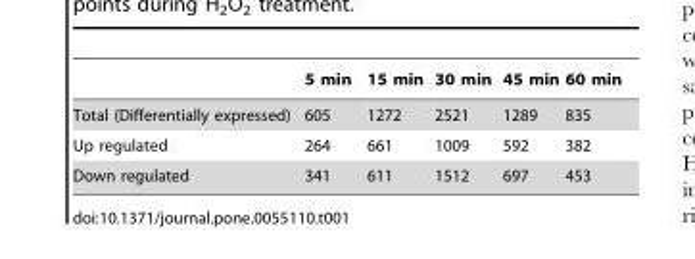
<table><thead><tr><td></td><td>5 min</td><td>15 min</td><td>30 min</td><td>45 min</td><td>60 min</td></tr></thead><tbody><tr><td>Total (Differentially expressed)</td><td>605</td><td>1272</td><td>2521</td><td>1289</td><td>835</td></tr><tr><td>Up regulated</td><td>264</td><td>661</td><td>1009</td><td>592</td><td>382</td></tr><tr><td>Down regulated</td><td>341</td><td>611</td><td>1512</td><td>697</td><td>453</td></tr></tbody></table>